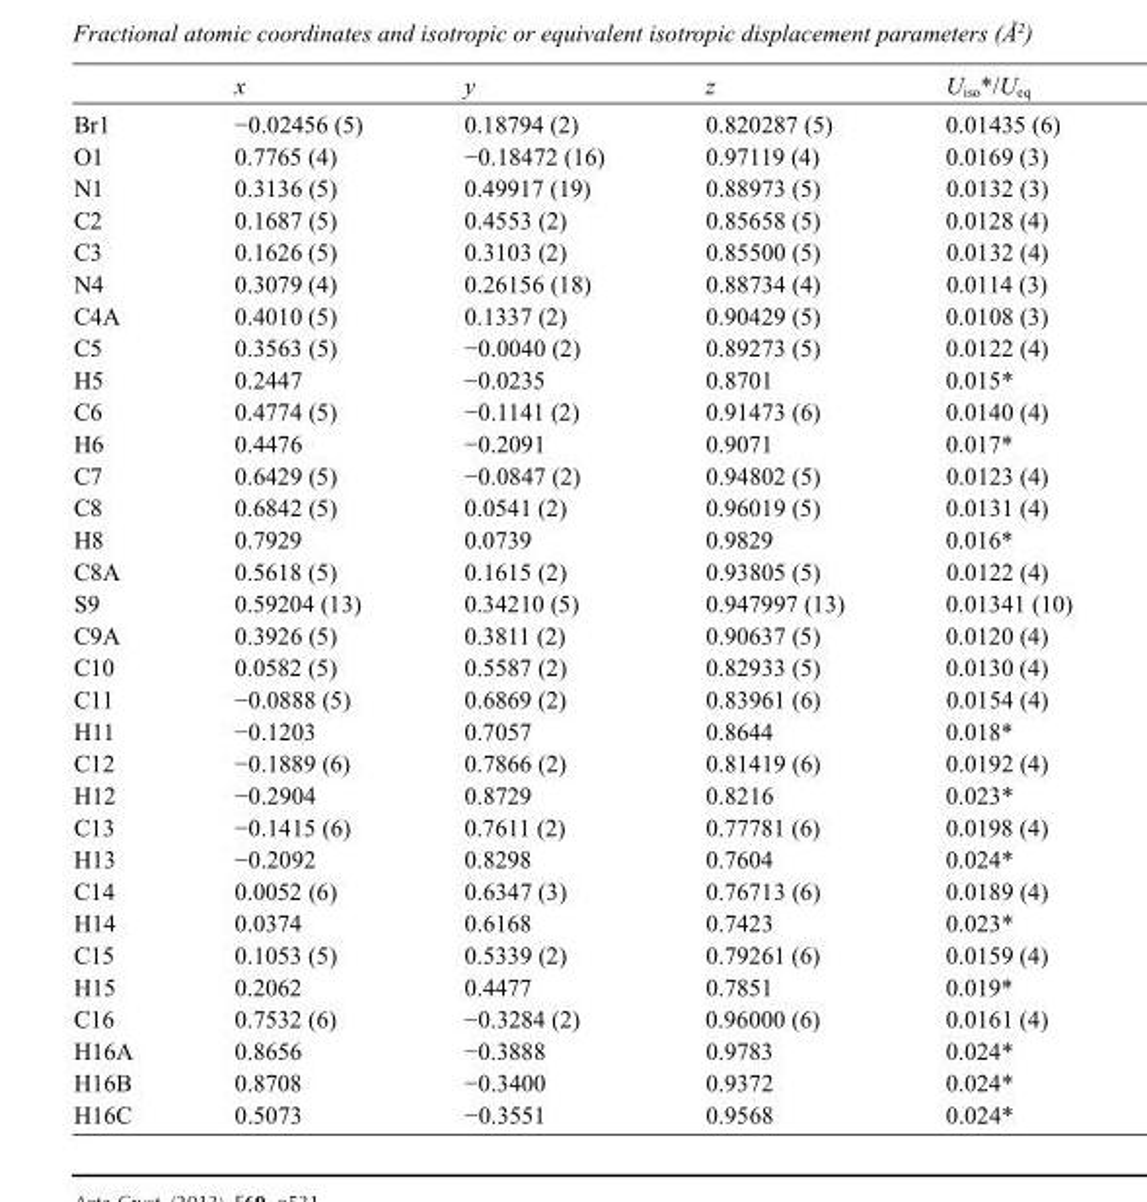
<table><thead><tr><td></td><td>x</td><td>y</td><td>z</td><td>U<sub>iso</sub>*/U<sub>eq</sub></td></tr></thead><tbody><tr><td>Br1</td><td>−0.02456 (5)</td><td>0.18794 (2)</td><td>0.820287 (5)</td><td>0.01435 (6)</td></tr><tr><td>O1</td><td>0.7765 (4)</td><td>−0.18472 (16)</td><td>0.97119 (4)</td><td>0.0169 (3)</td></tr><tr><td>N1</td><td>0.3136 (5)</td><td>0.49917 (19)</td><td>0.88973 (5)</td><td>0.0132 (3)</td></tr><tr><td>C2</td><td>0.1687 (5)</td><td>0.4553 (2)</td><td>0.85658 (5)</td><td>0.0128 (4)</td></tr><tr><td>C3</td><td>0.1626 (5)</td><td>0.3103 (2)</td><td>0.85500 (5)</td><td>0.0132 (4)</td></tr><tr><td>N4</td><td>0.3079 (4)</td><td>0.26156 (18)</td><td>0.88734 (4)</td><td>0.0114 (3)</td></tr><tr><td>C4A</td><td>0.4010 (5)</td><td>0.1337 (2)</td><td>0.90429 (5)</td><td>0.0108 (3)</td></tr><tr><td>C5</td><td>0.3563 (5)</td><td>−0.0040 (2)</td><td>0.89273 (5)</td><td>0.0122 (4)</td></tr><tr><td>H5</td><td>0.2447</td><td>−0.0235</td><td>0.8701</td><td>0.015*</td></tr><tr><td>C6</td><td>0.4774 (5)</td><td>−0.1141 (2)</td><td>0.91473 (6)</td><td>0.0140 (4)</td></tr><tr><td>H6</td><td>0.4476</td><td>−0.2091</td><td>0.9071</td><td>0.017*</td></tr><tr><td>C7</td><td>0.6429 (5)</td><td>−0.0847 (2)</td><td>0.94802 (5)</td><td>0.0123 (4)</td></tr><tr><td>C8</td><td>0.6842 (5)</td><td>0.0541 (2)</td><td>0.96019 (5)</td><td>0.0131 (4)</td></tr><tr><td>H8</td><td>0.7929</td><td>0.0739</td><td>0.9829</td><td>0.016*</td></tr><tr><td>C8A</td><td>0.5618 (5)</td><td>0.1615 (2)</td><td>0.93805 (5)</td><td>0.0122 (4)</td></tr><tr><td>S9</td><td>0.59204 (13)</td><td>0.34210 (5)</td><td>0.947997 (13)</td><td>0.01341 (10)</td></tr><tr><td>C9A</td><td>0.3926 (5)</td><td>0.3811 (2)</td><td>0.90637 (5)</td><td>0.0120 (4)</td></tr><tr><td>C10</td><td>0.0582 (5)</td><td>0.5587 (2)</td><td>0.82933 (5)</td><td>0.0130 (4)</td></tr><tr><td>C11</td><td>−0.0888 (5)</td><td>0.6869 (2)</td><td>0.83961 (6)</td><td>0.0154 (4)</td></tr><tr><td>H11</td><td>−0.1203</td><td>0.7057</td><td>0.8644</td><td>0.018*</td></tr><tr><td>C12</td><td>−0.1889 (6)</td><td>0.7866 (2)</td><td>0.81419 (6)</td><td>0.0192 (4)</td></tr><tr><td>H12</td><td>−0.2904</td><td>0.8729</td><td>0.8216</td><td>0.023*</td></tr><tr><td>C13</td><td>−0.1415 (6)</td><td>0.7611 (2)</td><td>0.77781 (6)</td><td>0.0198 (4)</td></tr><tr><td>H13</td><td>−0.2092</td><td>0.8298</td><td>0.7604</td><td>0.024*</td></tr><tr><td>C14</td><td>0.0052 (6)</td><td>0.6347 (3)</td><td>0.76713 (6)</td><td>0.0189 (4)</td></tr><tr><td>H14</td><td>0.0374</td><td>0.6168</td><td>0.7423</td><td>0.023*</td></tr><tr><td>C15</td><td>0.1053 (5)</td><td>0.5339 (2)</td><td>0.79261 (6)</td><td>0.0159 (4)</td></tr><tr><td>H15</td><td>0.2062</td><td>0.4477</td><td>0.7851</td><td>0.019*</td></tr><tr><td>C16</td><td>0.7532 (6)</td><td>−0.3284 (2)</td><td>0.96000 (6)</td><td>0.0161 (4)</td></tr><tr><td>H16A</td><td>0.8656</td><td>−0.3888</td><td>0.9783</td><td>0.024*</td></tr><tr><td>H16B</td><td>0.8708</td><td>−0.3400</td><td>0.9372</td><td>0.024*</td></tr><tr><td>H16C</td><td>0.5073</td><td>−0.3551</td><td>0.9568</td><td>0.024*</td></tr></tbody></table>